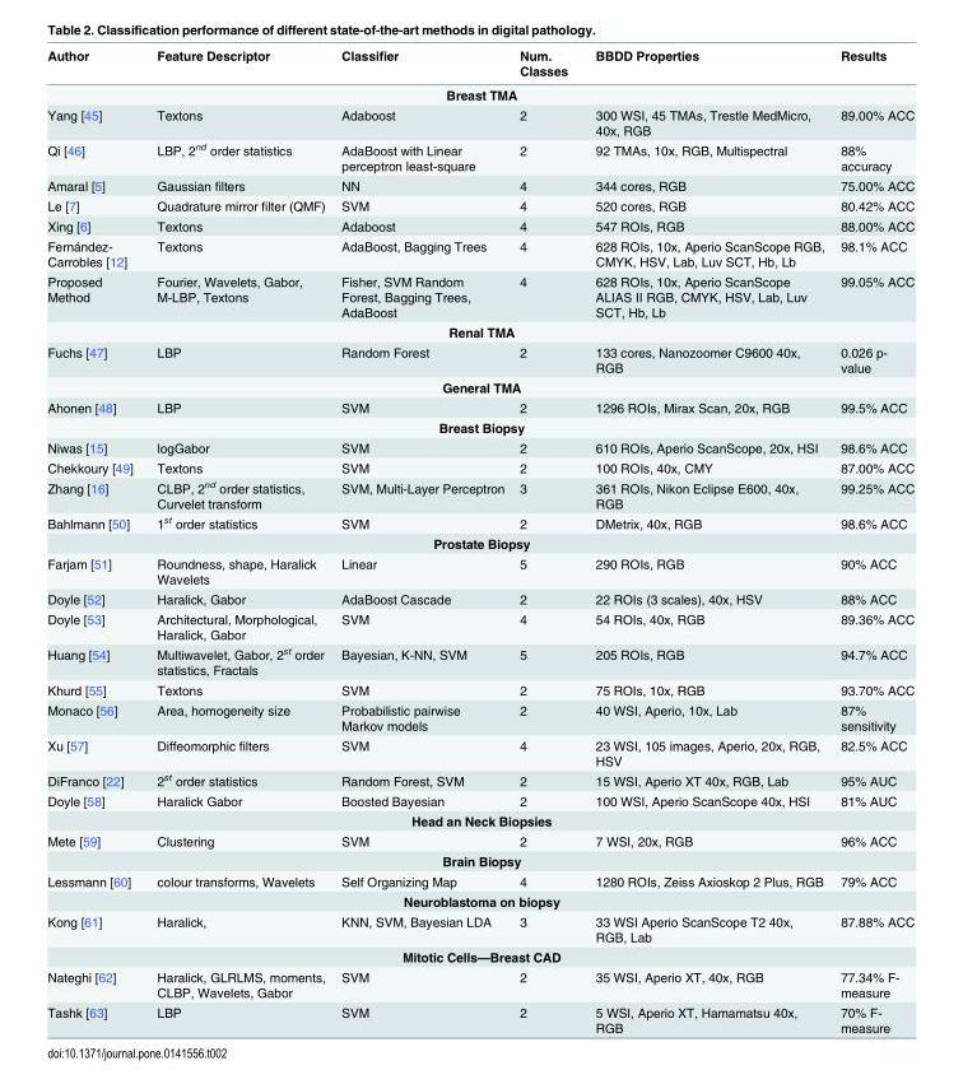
<table><thead><tr><td>Author</td><td>Feature Descriptor</td><td>Classifier</td><td>Num. Classes</td><td>BBDD Properties</td><td>Results</td></tr></thead><tbody><tr><td colspan="6">Breast TMA</td></tr><tr><td>Yang [45]</td><td>Textons</td><td>Adaboost</td><td>2</td><td>300 WSI, 45 TMAs, Trestle MedMicro, 40x, RGB</td><td>89.00% ACC</td></tr><tr><td>Qi [46]</td><td>LBP, 2<sup>nd</sup> order statistics</td><td>AdaBoost with Linear perceptron least-square</td><td>2</td><td>92 TMAs, 10x, RGB, Multispectral</td><td>88% accuracy</td></tr><tr><td>Amaral [5]</td><td>Gaussian filters</td><td>NN</td><td>4</td><td>344 cores, RGB</td><td>75.00% ACC</td></tr><tr><td>Le [7]</td><td>Quadrature mirror filter (QMF)</td><td>SVM</td><td>4</td><td>520 cores, RGB</td><td>80.42% ACC</td></tr><tr><td>Xing [6]</td><td>Textons</td><td>Adaboost</td><td>4</td><td>547 ROIs, RGB</td><td>88.00% ACC</td></tr><tr><td>Fernández- Carrobles [12]</td><td>Textons</td><td>AdaBoost, Bagging Trees</td><td>4</td><td>628 ROIs, 10x, Aperio ScanScope RGB, CMYK, HSV, Lab, Luv SCT, Hb, Lb</td><td>98.1% ACC</td></tr><tr><td>Proposed Method</td><td>Fourier, Wavelets, Gabor, M-LBP, Textons</td><td>Fisher, SVM Random Forest, Bagging Trees, AdaBoost</td><td>4</td><td>628 ROIs, 10x, Aperio ScanScope ALIAS II RGB, CMYK, HSV, Lab, Luv SCT, Hb, Lb</td><td>99.05% ACC</td></tr><tr><td colspan="6">Renal TMA</td></tr><tr><td>Fuchs [47]</td><td>LBP</td><td>Random Forest</td><td>2</td><td>133 cores, Nanozoomer C9600 40x, RGB</td><td>0.026 p- value</td></tr><tr><td colspan="6">General TMA</td></tr><tr><td>Ahonen [48]</td><td>LBP</td><td>SVM</td><td>2</td><td>1296 ROIs, Mirax Scan, 20x, RGB</td><td>99.5% ACC</td></tr><tr><td colspan="6">Breast Biopsy</td></tr><tr><td>Niwas [15]</td><td>logGabor</td><td>SVM</td><td>2</td><td>610 ROIs, Aperio ScanScope, 20x, HSI</td><td>98.6% ACC</td></tr><tr><td>Chekkoury [49]</td><td>Textons</td><td>SVM</td><td>2</td><td>100 ROIs, 40x, CMY</td><td>87.00% ACC</td></tr><tr><td>Zhang [16]</td><td>CLBP, 2<sup>nd</sup> order statistics, Curvelet transform</td><td>SVM, Multi-Layer Perceptron</td><td>3</td><td>361 ROIs, Nikon Eclipse E600, 40x, RGB</td><td>99.25% ACC</td></tr><tr><td>Bahlmann [50]</td><td>1<sup>st</sup> order statistics</td><td>SVM</td><td>2</td><td>DMetrix, 40x, RGB</td><td>98.6% ACC</td></tr><tr><td colspan="6">Prostate Biopsy</td></tr><tr><td>Farjam [51]</td><td>Roundness, shape, Haralick Wavelets</td><td>Linear</td><td>5</td><td>290 ROIs, RGB</td><td>90% ACC</td></tr><tr><td>Doyle [52]</td><td>Haralick, Gabor</td><td>AdaBoost Cascade</td><td>2</td><td>22 ROIs (3 scales), 40x, HSV</td><td>88% ACC</td></tr><tr><td>Doyle [53]</td><td>Architectural, Morphological, Haralick, Gabor</td><td>SVM</td><td>4</td><td>54 ROIs, 40x, RGB</td><td>89.36% ACC</td></tr><tr><td>Huang [54]</td><td>Multiwavelet, Gabor, 2<sup>st</sup> order statistics, Fractals</td><td>Bayesian, K-NN, SVM</td><td>5</td><td>205 ROIs, RGB</td><td>94.7% ACC</td></tr><tr><td>Khurd [55]</td><td>Textons</td><td>SVM</td><td>2</td><td>75 ROIs, 10x, RGB</td><td>93.70% ACC</td></tr><tr><td>Monaco [56]</td><td>Area, homogeneity size</td><td>Probabilistic pairwise Markov models</td><td>2</td><td>40 WSI, Aperio, 10x, Lab</td><td>87% sensitivity</td></tr><tr><td>Xu [57]</td><td>Diffeomorphic filters</td><td>SVM</td><td>4</td><td>23 WSI, 105 images, Aperio, 20x, RGB, HSV</td><td>82.5% ACC</td></tr><tr><td>DiFranco [22]</td><td>2<sup>st</sup> order statistics</td><td>Random Forest, SVM</td><td>2</td><td>15 WSI, Aperio XT 40x, RGB, Lab</td><td>95% AUC</td></tr><tr><td>Doyle [58]</td><td>Haralick Gabor</td><td>Boosted Bayesian</td><td>2</td><td>100 WSI, Aperio ScanScope 40x, HSI</td><td>81% AUC</td></tr><tr><td colspan="6">Head an Neck Biopsies</td></tr><tr><td>Mete [59]</td><td>Clustering</td><td>SVM</td><td>2</td><td>7 WSI, 20x, RGB</td><td>96% ACC</td></tr><tr><td colspan="6">Brain Biopsy</td></tr><tr><td>Lessmann [60]</td><td>colour transforms, Wavelets</td><td>Self Organizing Map</td><td>4</td><td>1280 ROIs, Zeiss Axioskop 2 Plus, RGB</td><td>79% ACC</td></tr><tr><td colspan="6">Neuroblastoma on biopsy</td></tr><tr><td>Kong [61]</td><td>Haralick,</td><td>KNN, SVM, Bayesian LDA</td><td>3</td><td>33 WSI Aperio ScanScope T2 40x, RGB, Lab</td><td>87.88% ACC</td></tr><tr><td colspan="6">Mitotic Cells—Breast CAD</td></tr><tr><td>Nateghi [62]</td><td>Haralick, GLRLMS, moments, CLBP, Wavelets, Gabor</td><td>SVM</td><td>2</td><td>35 WSI, Aperio XT, 40x, RGB</td><td>77.34% F- measure</td></tr><tr><td>Tashk [63]</td><td>LBP</td><td>SVM</td><td>2</td><td>5 WSI, Aperio XT, Hamamatsu 40x, RGB</td><td>70% F- measure</td></tr></tbody></table>